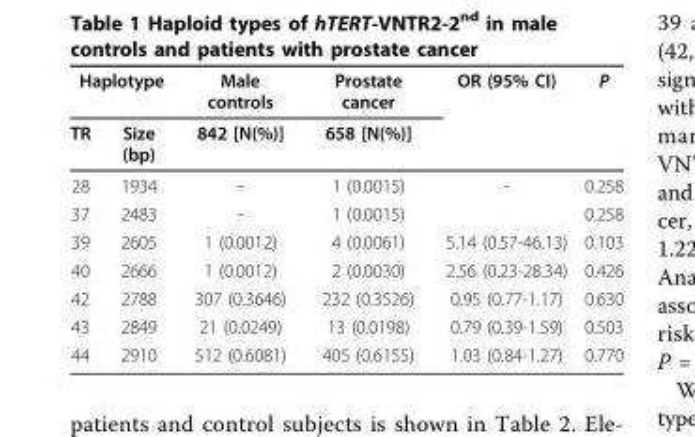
<table><thead><tr><td colspan="2">Haplotype</td><td rowspan="2">Male controls 842 [N(%)]</td><td rowspan="2">Prostate cancer 658 [N(%)]</td><td rowspan="2">OR (95% CI)</td><td rowspan="2">P</td></tr><tr><td>TR</td><td>Size (bp)</td></tr></thead><tbody><tr><td>28</td><td>1934</td><td>-</td><td>1 (0.0015)</td><td>-</td><td>0.258</td></tr><tr><td>37</td><td>2483</td><td>-</td><td>1 (0.0015)</td><td></td><td>0.258</td></tr><tr><td>39</td><td>2605</td><td>1 (0.0012)</td><td>4 (0.0061)</td><td>5.14 (0.57-46.13)</td><td>0.103</td></tr><tr><td>40</td><td>2666</td><td>1 (0.0012)</td><td>2 (0.0030)</td><td>2.56 (0.23-28.34)</td><td>0.426</td></tr><tr><td>42</td><td>2788</td><td>307 (0.3646)</td><td>232 (0.3526)</td><td>0.95 (0.77-1.17)</td><td>0.630</td></tr><tr><td>43</td><td>2849</td><td>21 (0.0249)</td><td>13 (0.0198)</td><td>0.79 (0.39-1.59)</td><td>0.503</td></tr><tr><td>44</td><td>2910</td><td>512 (0.6081)</td><td>405 (0.6155)</td><td>1.03 (0.84-1.27)</td><td>0.770</td></tr></tbody></table>